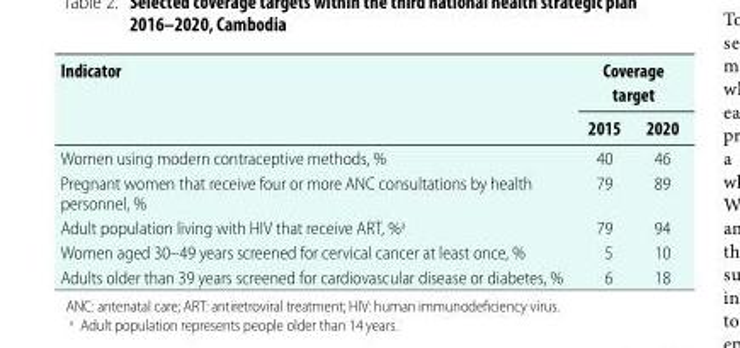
<table><thead><tr><td rowspan="2">Indicator</td><td colspan="2">Coverage target</td></tr><tr><td>2015</td><td>2020</td></tr></thead><tbody><tr><td>Women using modern contraceptive methods, %</td><td>40</td><td>46</td></tr><tr><td>Pregnant women that receive four or more ANC consultations by health personnel, %</td><td>79</td><td>89</td></tr><tr><td>Adult population living with HIV that receive ART, %<sup>a</sup></td><td>79</td><td>94</td></tr><tr><td>Women aged 30–49 years screened for cervical cancer at least once, %</td><td>5</td><td>10</td></tr><tr><td>Adults older than 39 years screened for cardiovascular disease or diabetes, %</td><td>6</td><td>18</td></tr></tbody></table>